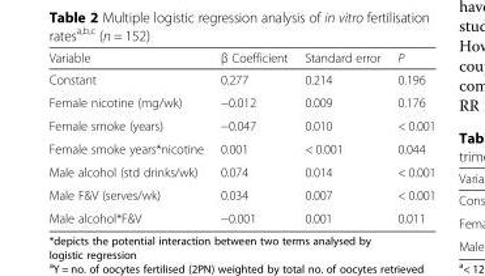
<table><thead><tr><td>Variable</td><td>β Coefficient</td><td>Standard error</td><td>P</td></tr></thead><tbody><tr><td>Constant</td><td>0.277</td><td>0.214</td><td>0.196</td></tr><tr><td>Female nicotine (mg/wk)</td><td>−0.012</td><td>0.009</td><td>0.176</td></tr><tr><td>Female smoke (years)</td><td>−0.047</td><td>0.010</td><td>&lt; 0.001</td></tr><tr><td>Female smoke years*nicotine</td><td>0.001</td><td>&lt; 0.001</td><td>0.044</td></tr><tr><td>Male alcohol (std drinks/wk)</td><td>0.074</td><td>0.014</td><td>&lt; 0.001</td></tr><tr><td>Male F&amp;V (serves/wk)</td><td>0.034</td><td>0.007</td><td>&lt; 0.001</td></tr><tr><td>Male alcohol*F&amp;V</td><td>−0.001</td><td>0.001</td><td>0.011</td></tr></tbody></table>